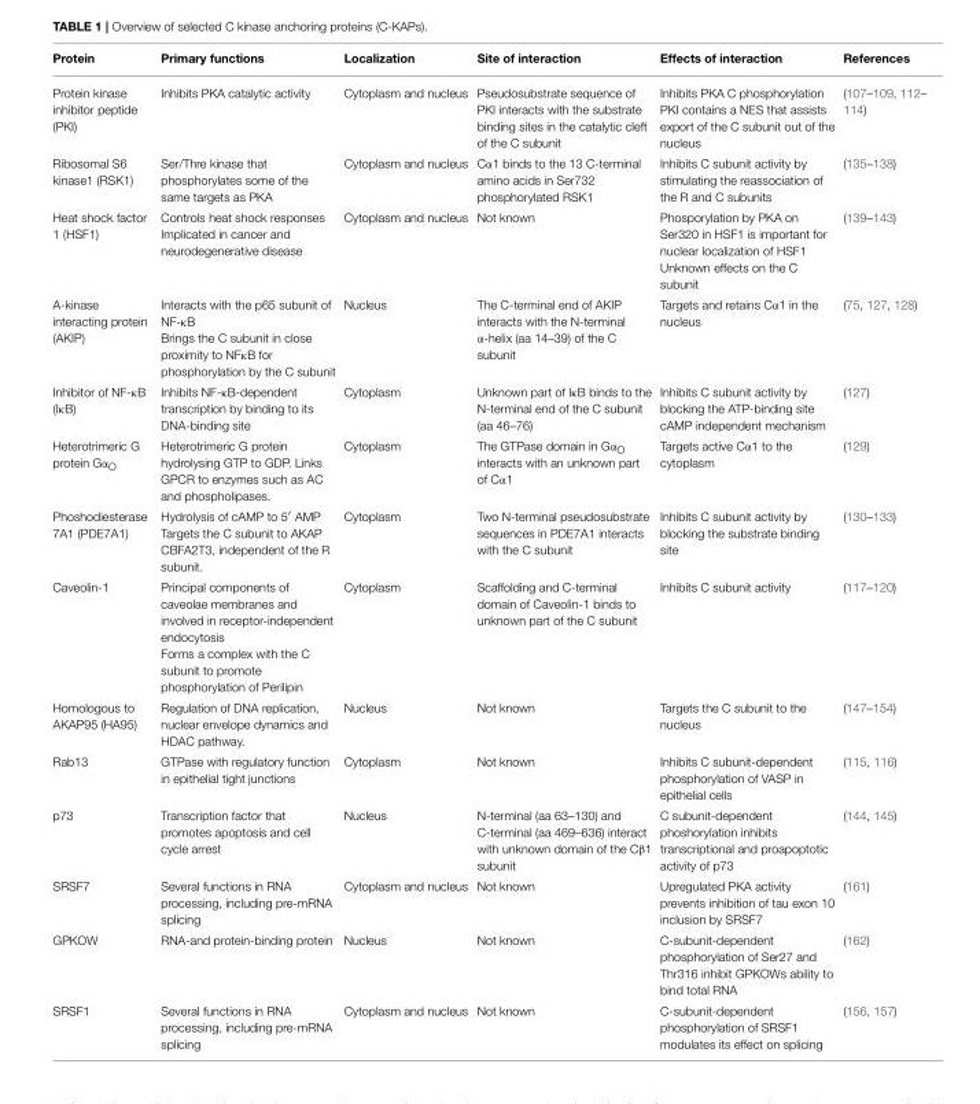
<table><thead><tr><td>Protein</td><td>Primary functions</td><td>Localization</td><td>Site of interaction</td><td>Effects of interaction</td><td>References</td></tr></thead><tbody><tr><td>Protein kinase inhibitor peptide (PKI)</td><td>Inhibits PKA catalytic activity</td><td>Cytoplasm and nucleus</td><td>Pseudosubstrate sequence of PKI interacts with the substrate binding sites in the catalytic cleft of the C subunit</td><td>Inhibits PKA C phosphorylation PKI contains a NES that assists export of the C subunit out of the nucleus</td><td>(107–109, 112– 114)</td></tr><tr><td>Ribosomal S6 kinase1 (RSK1)</td><td>Ser/Thre kinase that phosphorylates some of the same targets as PKA</td><td>Cytoplasm and nucleus</td><td>Cα1 binds to the 13 C-terminal amino acids in Ser732 phosphorylated RSK1</td><td>Inhibits C subunit activity by stimulating the reassociation of the R and C subunits</td><td>(135–138)</td></tr><tr><td>Heat shock factor 1 (HSF1)</td><td>Controls heat shock responses Implicated in cancer and neurodegenerative disease</td><td>Cytoplasm and nucleus</td><td>Not known</td><td>Phosporylation by PKA on Ser320 in HSF1 is important for nuclear localization of HSF1 Unknown effects on the C subunit</td><td>(139–143)</td></tr><tr><td>A-kinase interacting protein (AKIP)</td><td>Interacts with the p65 subunit of NF-κB Brings the C subunit in close proximity to NFκB for phosphorylation by the C subunit</td><td>Nucleus</td><td>The C-terminal end of AKIP interacts with the N-terminal α-helix (aa 14–39) of the C subunit</td><td>Targets and retains Cα1 in the nucleus</td><td>(75, 127, 128)</td></tr><tr><td>Inhibitor of NF-κB (IκB)</td><td>Inhibits NF-κB-dependent transcription by binding to its DNA-binding site</td><td>Cytoplasm</td><td>Unknown part of IκB binds to the N-terminal end of the C subunit (aa 46–76)</td><td>Inhibits C subunit activity by blocking the ATP-binding site cAMP independent mechanism</td><td>(127)</td></tr><tr><td>Heterotrimeric G protein Gα<sub>O</sub></td><td>Heterotrimeric G protein hydrolysing GTP to GDP. Links GPCR to enzymes such as AC and phospholipases.</td><td>Cytoplasm</td><td>The GTPase domain in Gα<sub>O</sub> interacts with an unknown part of Cα1</td><td>Targets active Cα1 to the cytoplasm</td><td>(129)</td></tr><tr><td>Phoshodiesterase 7A1 (PDE7A1)</td><td>Hydrolysis of cAMP to 5′ AMP Targets the C subunit to AKAP CBFA2T3, independent of the R subunit.</td><td>Cytoplasm</td><td>Two N-terminal pseudosubstrate sequences in PDE7A1 interacts with the C subunit</td><td>Inhibits C subunit activity by blocking the substrate binding site</td><td>(130–133)</td></tr><tr><td>Caveolin-1</td><td>Principal components of caveolae membranes and involved in receptor-independent endocytosis Forms a complex with the C subunit to promote phosphorylation of Perilipin</td><td>Cytoplasm</td><td>Scaffolding and C-terminal domain of Caveolin-1 binds to unknown part of the C subunit</td><td>Inhibits C subunit activity</td><td>(117–120)</td></tr><tr><td>Homologous to AKAP95 (HA95)</td><td>Regulation of DNA replication, nuclear envelope dynamics and HDAC pathway.</td><td>Nucleus</td><td>Not known</td><td>Targets the C subunit to the nucleus</td><td>(147–154)</td></tr><tr><td>Rab13</td><td>GTPase with regulatory function in epithelial tight junctions</td><td>Cytoplasm</td><td>Not known</td><td>Inhibits C subunit-dependent phosphorylation of VASP in epithelial cells</td><td>(115, 116)</td></tr><tr><td>p73</td><td>Transcription factor that promotes apoptosis and cell cycle arrest</td><td>Nucleus</td><td>N-terminal (aa 63–130) and C-terminal (aa 469–636) interact with unknown domain of the Cβ1 subunit</td><td>C subunit-dependent phoshorylation inhibits transcriptional and proapoptotic activity of p73</td><td>(144, 145)</td></tr><tr><td>SRSF7</td><td>Several functions in RNA processing, including pre-mRNA splicing</td><td>Cytoplasm and nucleus</td><td>Not known</td><td>Upregulated PKA activity prevents inhibition of tau exon 10 inclusion by SRSF7</td><td>(161)</td></tr><tr><td>GPKOW</td><td>RNA-and protein-binding protein</td><td>Nucleus</td><td>Not known</td><td>C-subunit-dependent phosphorylation of Ser27 and Thr316 inhibit GPKOWs ability to bind total RNA</td><td>(162)</td></tr><tr><td>SRSF1</td><td>Several functions in RNA processing, including pre-mRNA splicing</td><td>Cytoplasm and nucleus</td><td>Not known</td><td>C-subunit-dependent phosphorylation of SRSF1 modulates its effect on splicing</td><td>(156, 157)</td></tr></tbody></table>